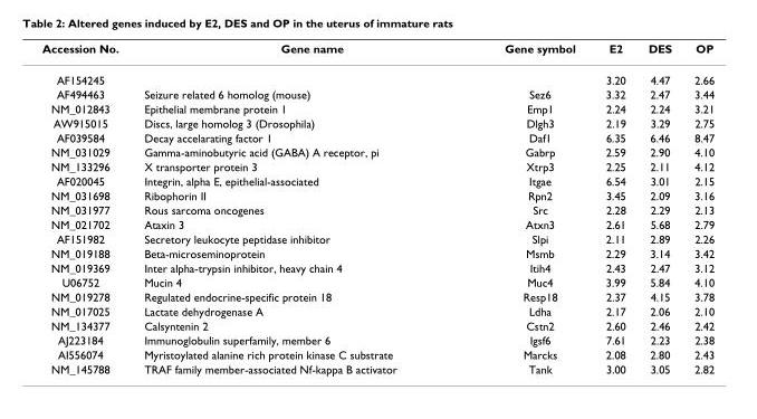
<table><thead><tr><td>Accession No.</td><td>Gene name</td><td>Gene symbol</td><td>E2</td><td>DES</td><td>OP</td></tr></thead><tbody><tr><td>AF154245</td><td></td><td></td><td>3.20</td><td>4.47</td><td>2.66</td></tr><tr><td>AF494463</td><td>Seizure related 6 homolog (mouse)</td><td>Sez6</td><td>3.32</td><td>2.47</td><td>3.44</td></tr><tr><td>NM_012843</td><td>Epithelial membrane protein 1</td><td>Emp1</td><td>2.24</td><td>2.24</td><td>3.21</td></tr><tr><td>AW915015</td><td>Discs, large homolog 3 (Drosophila)</td><td>Dlgh3</td><td>2.19</td><td>3.29</td><td>2.75</td></tr><tr><td>AF039584</td><td>Decay accelarating factor 1</td><td>Daf1</td><td>6.35</td><td>6.46</td><td>8.47</td></tr><tr><td>NM_031029</td><td>Gamma-aminobutyric acid (GABA) A receptor, pi</td><td>Gabrp</td><td>2.59</td><td>2.90</td><td>4.10</td></tr><tr><td>NM_133296</td><td>X transporter protein 3</td><td>Xtrp3</td><td>2.25</td><td>2.11</td><td>4.12</td></tr><tr><td>AF020045</td><td>Integrin, alpha E, epithelial-associated</td><td>Itgae</td><td>6.54</td><td>3.01</td><td>2.15</td></tr><tr><td>NM_031698</td><td>Ribophorin II</td><td>Rpn2</td><td>3.45</td><td>2.09</td><td>3.16</td></tr><tr><td>NM_031977</td><td>Rous sarcoma oncogenes</td><td>Src</td><td>2.28</td><td>2.29</td><td>2.13</td></tr><tr><td>NM_021702</td><td>Ataxin 3</td><td>Atxn3</td><td>2.61</td><td>5.68</td><td>2.79</td></tr><tr><td>AF151982</td><td>Secretory leukocyte peptidase inhibitor</td><td>Slpi</td><td>2.11</td><td>2.89</td><td>2.26</td></tr><tr><td>NM_019188</td><td>Beta-microseminoprotein</td><td>Msmb</td><td>2.29</td><td>3.14</td><td>3.42</td></tr><tr><td>NM_019369</td><td>Inter alpha-trypsin inhibitor, heavy chain 4</td><td>Itih4</td><td>2.43</td><td>2.47</td><td>3.12</td></tr><tr><td>U06752</td><td>Mucin 4</td><td>Muc4</td><td>3.99</td><td>5.84</td><td>4.10</td></tr><tr><td>NM_019278</td><td>Regulated endocrine-specific protein 18</td><td>Resp18</td><td>2.37</td><td>4.15</td><td>3.78</td></tr><tr><td>NM_017025</td><td>Lactate dehydrogenase A</td><td>Ldha</td><td>2.17</td><td>2.06</td><td>2.10</td></tr><tr><td>NM_134377</td><td>Calsyntenin 2</td><td>Cstn2</td><td>2.60</td><td>2.46</td><td>2.42</td></tr><tr><td>AJ223184</td><td>Immunoglobulin superfamily, member 6</td><td>Igsf6</td><td>7.61</td><td>2.23</td><td>2.38</td></tr><tr><td>AI556074</td><td>Myristoylated alanine rich protein kinase C substrate</td><td>Marcks</td><td>2.08</td><td>2.80</td><td>2.43</td></tr><tr><td>NM_145788</td><td>TRAF family member-associated Nf-kappa B activator</td><td>Tank</td><td>3.00</td><td>3.05</td><td>2.82</td></tr></tbody></table>